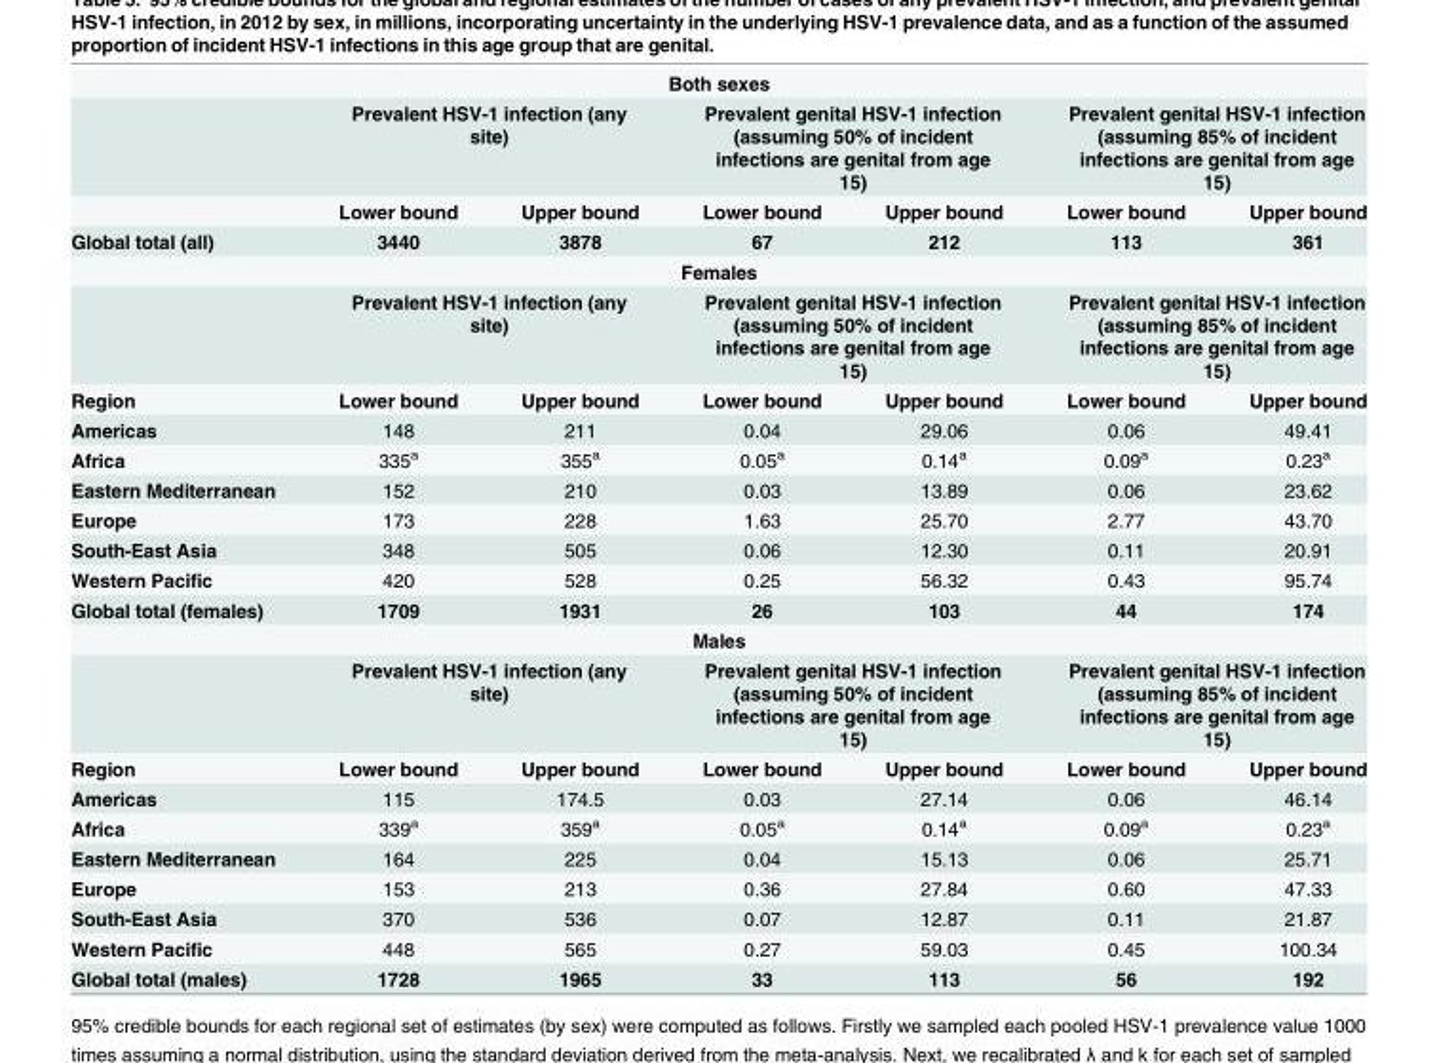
<table><tbody><tr><td colspan="7">Both sexes</td></tr><tr><td></td><td colspan="2">Prevalent HSV-1 infection (any site)</td><td colspan="2">Prevalent genital HSV-1 infection (assuming 50% of incident infections are genital from age 15)</td><td colspan="2">Prevalent genital HSV-1 infection (assuming 85% of incident infections are genital from age 15)</td></tr><tr><td></td><td>Lower bound</td><td>Upper bound</td><td>Lower bound</td><td>Upper bound</td><td>Lower bound</td><td>Upper bound</td></tr><tr><td>Global total (all)</td><td>3440</td><td>3878</td><td>67</td><td>212</td><td>113</td><td>361</td></tr><tr><td colspan="7">Females</td></tr><tr><td></td><td colspan="2">Prevalent HSV-1 infection (any site)</td><td colspan="2">Prevalent genital HSV-1 infection (assuming 50% of incident infections are genital from age 15)</td><td colspan="2">Prevalent genital HSV-1 infection (assuming 85% of incident infections are genital from age 15)</td></tr><tr><td>Region</td><td>Lower bound</td><td>Upper bound</td><td>Lower bound</td><td>Upper bound</td><td>Lower bound</td><td>Upper bound</td></tr><tr><td>Americas</td><td>148</td><td>211</td><td>0.04</td><td>29.06</td><td>0.06</td><td>49.41</td></tr><tr><td>Africa</td><td>335<sup>a</sup></td><td>355<sup>a</sup></td><td>0.05<sup>a</sup></td><td>0.14<sup>a</sup></td><td>0.09<sup>a</sup></td><td>0.23<sup>a</sup></td></tr><tr><td>Eastern Mediterranean</td><td>152</td><td>210</td><td>0.03</td><td>13.89</td><td>0.06</td><td>23.62</td></tr><tr><td>Europe</td><td>173</td><td>228</td><td>1.63</td><td>25.70</td><td>2.77</td><td>43.70</td></tr><tr><td>South-East Asia</td><td>348</td><td>505</td><td>0.06</td><td>12.30</td><td>0.11</td><td>20.91</td></tr><tr><td>Western Pacific</td><td>420</td><td>528</td><td>0.25</td><td>56.32</td><td>0.43</td><td>95.74</td></tr><tr><td>Global total (females)</td><td>1709</td><td>1931</td><td>26</td><td>103</td><td>44</td><td>174</td></tr><tr><td colspan="7">Males</td></tr><tr><td></td><td colspan="2">Prevalent HSV-1 infection (any site)</td><td colspan="2">Prevalent genital HSV-1 infection (assuming 50% of incident infections are genital from age 15)</td><td colspan="2">Prevalent genital HSV-1 infection (assuming 85% of incident infections are genital from age 15)</td></tr><tr><td>Region</td><td>Lower bound</td><td>Upper bound</td><td>Lower bound</td><td>Upper bound</td><td>Lower bound</td><td>Upper bound</td></tr><tr><td>Americas</td><td>115</td><td>174.5</td><td>0.03</td><td>27.14</td><td>0.06</td><td>46.14</td></tr><tr><td>Africa</td><td>339<sup>a</sup></td><td>359<sup>a</sup></td><td>0.05<sup>a</sup></td><td>0.14<sup>a</sup></td><td>0.09<sup>a</sup></td><td>0.23<sup>a</sup></td></tr><tr><td>Eastern Mediterranean</td><td>164</td><td>225</td><td>0.04</td><td>15.13</td><td>0.06</td><td>25.71</td></tr><tr><td>Europe</td><td>153</td><td>213</td><td>0.36</td><td>27.84</td><td>0.60</td><td>47.33</td></tr><tr><td>South-East Asia</td><td>370</td><td>536</td><td>0.07</td><td>12.87</td><td>0.11</td><td>21.87</td></tr><tr><td>Western Pacific</td><td>448</td><td>565</td><td>0.27</td><td>59.03</td><td>0.45</td><td>100.34</td></tr><tr><td>Global total (males)</td><td>1728</td><td>1965</td><td>33</td><td>113</td><td>56</td><td>192</td></tr></tbody></table>